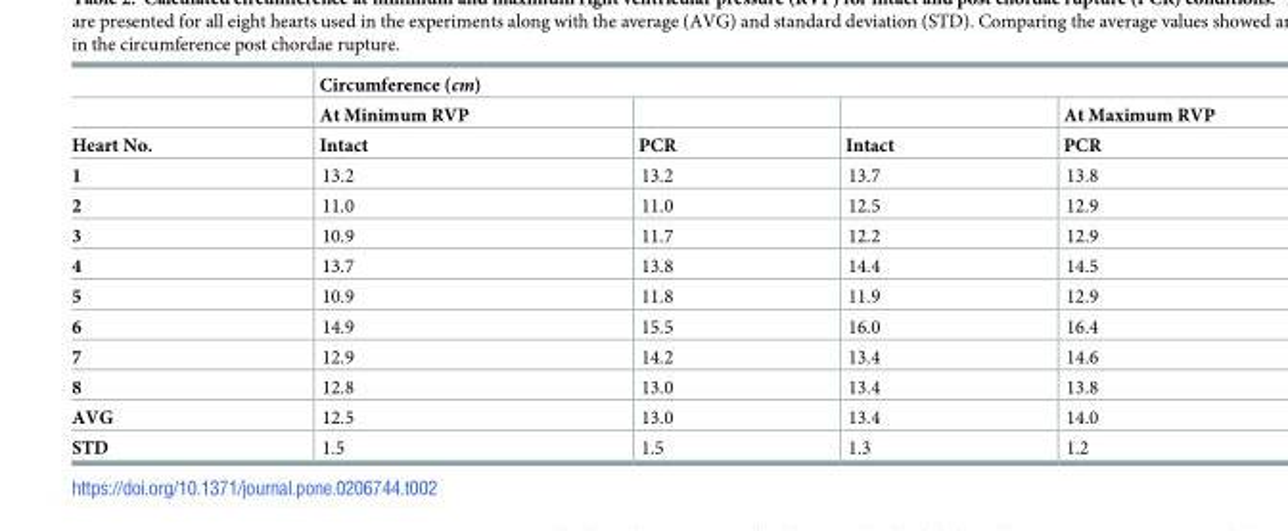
<table><thead><tr><td rowspan="3">Heart No.</td><td colspan="4">Circumference (cm)</td></tr><tr><td rowspan="2">At Minimum RVP Intact</td><td rowspan="2">PCR</td><td rowspan="2">Intact</td><td rowspan="2">At Maximum RVP PCR</td></tr><tr></tr></thead><tbody><tr><td>1</td><td>13.2</td><td>13.2</td><td>13.7</td><td>13.8</td></tr><tr><td>2</td><td>11.0</td><td>11.0</td><td>12.5</td><td>12.9</td></tr><tr><td>3</td><td>10.9</td><td>11.7</td><td>12.2</td><td>12.9</td></tr><tr><td>4</td><td>13.7</td><td>13.8</td><td>14.4</td><td>14.5</td></tr><tr><td>5</td><td>10.9</td><td>11.8</td><td>11.9</td><td>12.9</td></tr><tr><td>6</td><td>14.9</td><td>15.5</td><td>16.0</td><td>16.4</td></tr><tr><td>7</td><td>12.9</td><td>14.2</td><td>13.4</td><td>14.6</td></tr><tr><td>8</td><td>12.8</td><td>13.0</td><td>13.4</td><td>13.8</td></tr><tr><td>AVG</td><td>12.5</td><td>13.0</td><td>13.4</td><td>14.0</td></tr><tr><td>STD</td><td>1.5</td><td>1.5</td><td>1.3</td><td>1.2</td></tr></tbody></table>